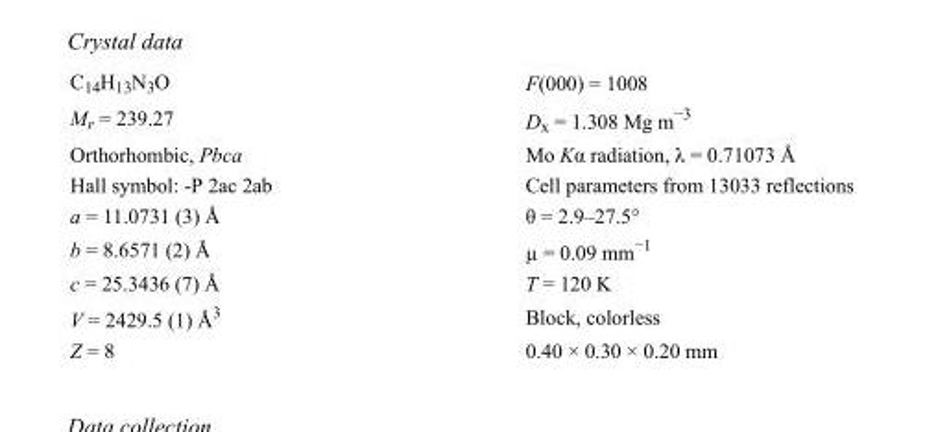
<table><tbody><tr><td>C<sub>14</sub>H<sub>13</sub>N<sub>3</sub>O</td><td>F(000) = 1008</td></tr><tr><td>M<sub>r</sub> = 239.27</td><td>D<sub>x</sub> = 1.308 Mg m<sup>−3</sup></td></tr><tr><td>Orthorhombic, Pbca</td><td>Mo Kα radiation, λ = 0.71073 Å</td></tr><tr><td>Hall symbol: -P 2ac 2ab</td><td>Cell parameters from 13033 reflections</td></tr><tr><td>a = 11.0731 (3) Å</td><td>θ = 2.9–27.5°</td></tr><tr><td>b = 8.6571 (2) Å</td><td>µ = 0.09 mm<sup>−1</sup></td></tr><tr><td>c = 25.3436 (7) Å</td><td>T = 120 K</td></tr><tr><td>V = 2429.5 (1) Å<sup>3</sup></td><td>Block, colorless</td></tr><tr><td>Z = 8</td><td>0.40 × 0.30 × 0.20 mm</td></tr></tbody></table>